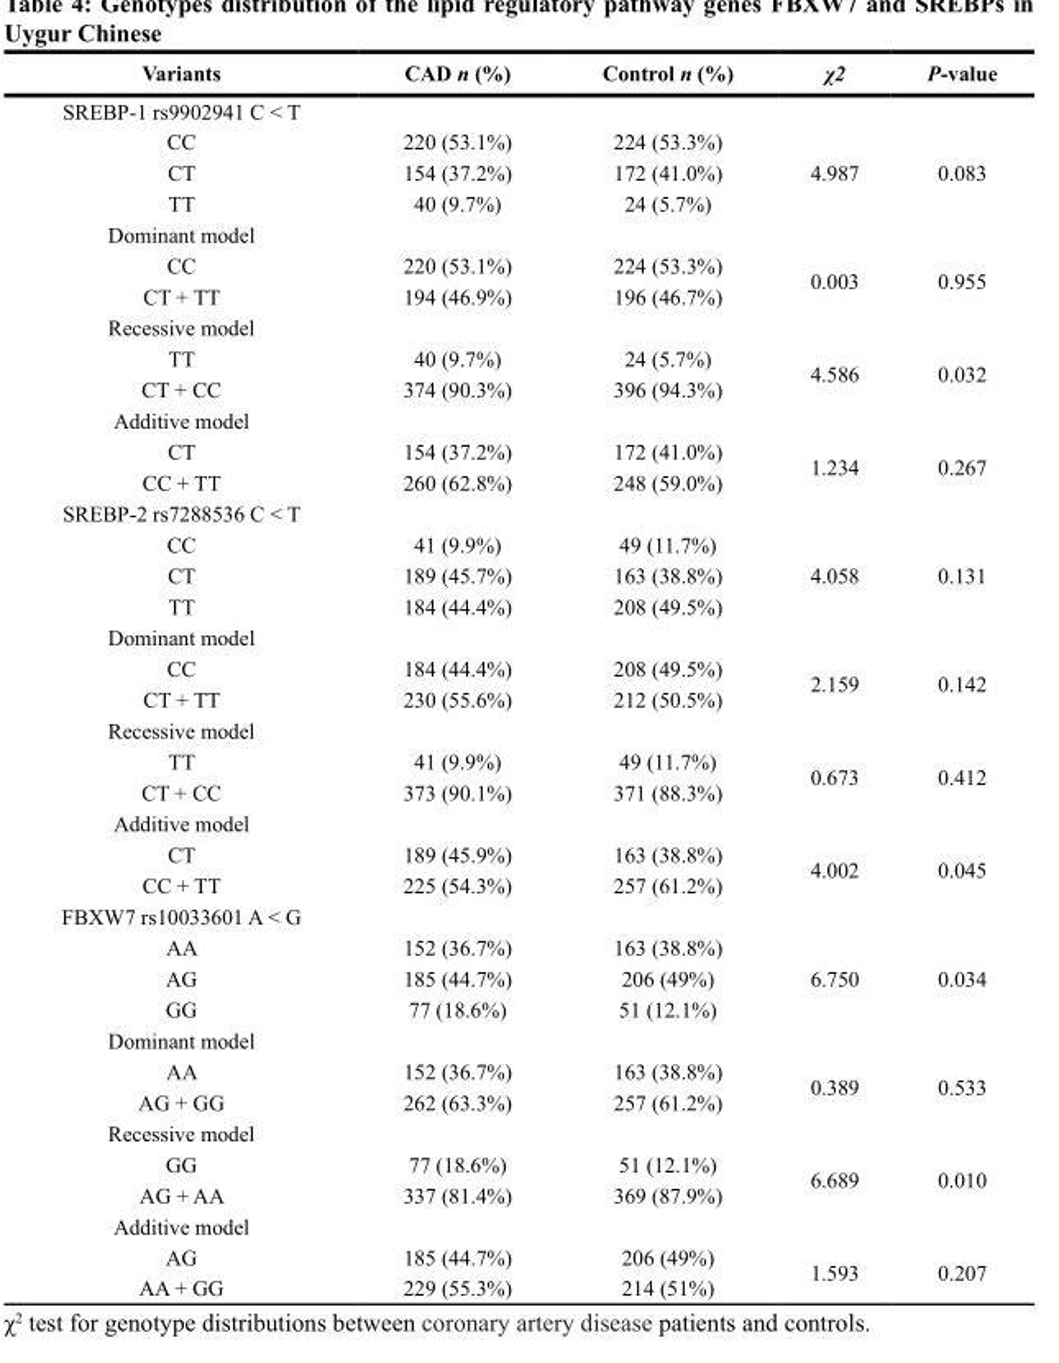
<table><thead><tr><td>Variants</td><td>CAD n (%)</td><td>Control n (%)</td><td>χ2</td><td>P-value</td></tr></thead><tbody><tr><td colspan="5">SREBP-1 rs9902941 C &lt; T</td></tr><tr><td>CC</td><td>220 (53.1%)</td><td>224 (53.3%)</td><td rowspan="3">4.987</td><td rowspan="3">0.083</td></tr><tr><td>CT</td><td>154 (37.2%)</td><td>172 (41.0%)</td></tr><tr><td>TT</td><td>40 (9.7%)</td><td>24 (5.7%)</td></tr><tr><td colspan="5">Dominant model</td></tr><tr><td>CC</td><td>220 (53.1%)</td><td>224 (53.3%)</td><td rowspan="2">0.003</td><td rowspan="2">0.955</td></tr><tr><td>CT + TT</td><td>194 (46.9%)</td><td>196 (46.7%)</td></tr><tr><td colspan="5">Recessive model</td></tr><tr><td>TT</td><td>40 (9.7%)</td><td>24 (5.7%)</td><td rowspan="2">4.586</td><td rowspan="2">0.032</td></tr><tr><td>CT + CC</td><td>374 (90.3%)</td><td>396 (94.3%)</td></tr><tr><td colspan="5">Additive model</td></tr><tr><td>CT</td><td>154 (37.2%)</td><td>172 (41.0%)</td><td rowspan="2">1.234</td><td rowspan="2">0.267</td></tr><tr><td>CC + TT</td><td>260 (62.8%)</td><td>248 (59.0%)</td></tr><tr><td colspan="5">SREBP-2 rs7288536 C &lt; T</td></tr><tr><td>CC</td><td>41 (9.9%)</td><td>49 (11.7%)</td><td rowspan="3">4.058</td><td rowspan="3">0.131</td></tr><tr><td>CT</td><td>189 (45.7%)</td><td>163 (38.8%)</td></tr><tr><td>TT</td><td>184 (44.4%)</td><td>208 (49.5%)</td></tr><tr><td colspan="5">Dominant model</td></tr><tr><td>CC</td><td>184 (44.4%)</td><td>208 (49.5%)</td><td rowspan="2">2.159</td><td rowspan="2">0.142</td></tr><tr><td>CT + TT</td><td>230 (55.6%)</td><td>212 (50.5%)</td></tr><tr><td colspan="5">Recessive model</td></tr><tr><td>TT</td><td>41 (9.9%)</td><td>49 (11.7%)</td><td rowspan="2">0.673</td><td rowspan="2">0.412</td></tr><tr><td>CT + CC</td><td>373 (90.1%)</td><td>371 (88.3%)</td></tr><tr><td colspan="5">Additive model</td></tr><tr><td>CT</td><td>189 (45.9%)</td><td>163 (38.8%)</td><td rowspan="2">4.002</td><td rowspan="2">0.045</td></tr><tr><td>CC + TT</td><td>225 (54.3%)</td><td>257 (61.2%)</td></tr><tr><td colspan="5">FBXW7 rs10033601 A &lt; G</td></tr><tr><td>AA</td><td>152 (36.7%)</td><td>163 (38.8%)</td><td rowspan="3">6.750</td><td rowspan="3">0.034</td></tr><tr><td>AG</td><td>185 (44.7%)</td><td>206 (49%)</td></tr><tr><td>GG</td><td>77 (18.6%)</td><td>51 (12.1%)</td></tr><tr><td colspan="5">Dominant model</td></tr><tr><td>AA</td><td>152 (36.7%)</td><td>163 (38.8%)</td><td rowspan="2">0.389</td><td rowspan="2">0.533</td></tr><tr><td>AG + GG</td><td>262 (63.3%)</td><td>257 (61.2%)</td></tr><tr><td colspan="5">Recessive model</td></tr><tr><td>GG</td><td>77 (18.6%)</td><td>51 (12.1%)</td><td rowspan="2">6.689</td><td rowspan="2">0.010</td></tr><tr><td>AG + AA</td><td>337 (81.4%)</td><td>369 (87.9%)</td></tr><tr><td colspan="5">Additive model</td></tr><tr><td>AG</td><td>185 (44.7%)</td><td>206 (49%)</td><td rowspan="2">1.593</td><td rowspan="2">0.207</td></tr><tr><td>AA + GG</td><td>229 (55.3%)</td><td>214 (51%)</td></tr></tbody></table>